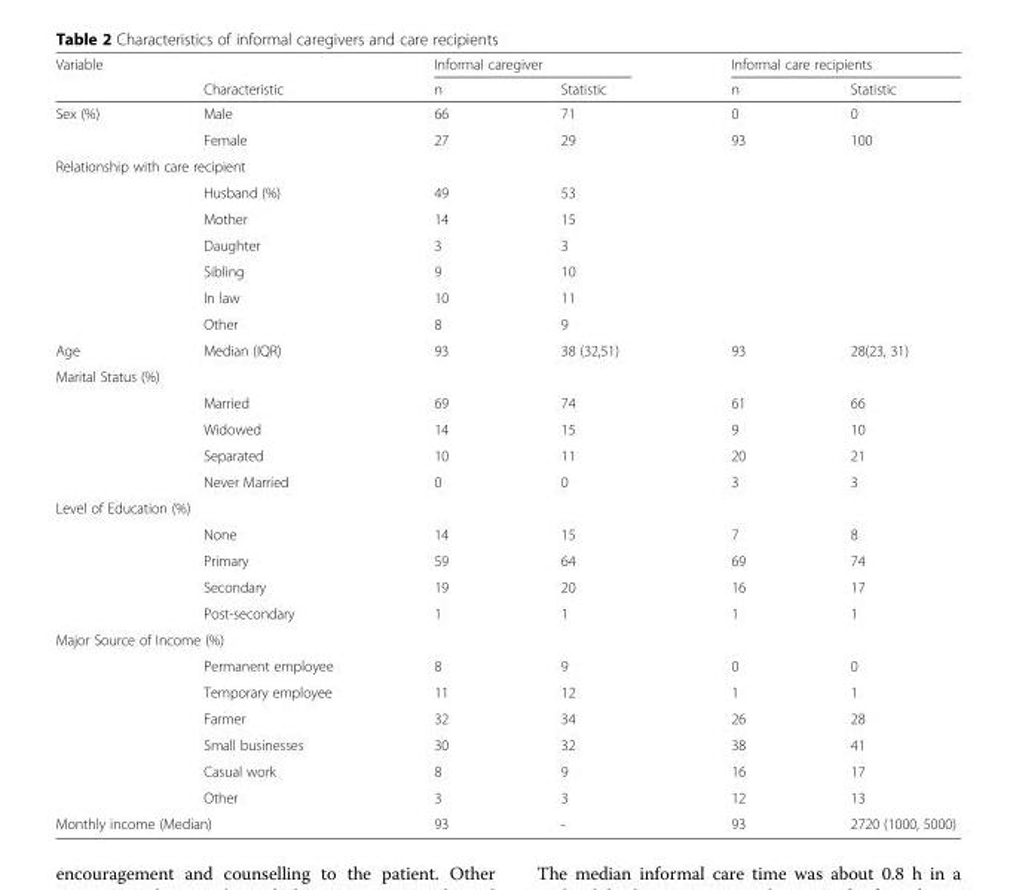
<table><thead><tr><td rowspan="2">Variable</td><td rowspan="2">Characteristic</td><td colspan="2">Informal caregiver</td><td colspan="2">Informal care recipients</td></tr><tr><td>n</td><td>Statistic</td><td>n</td><td>Statistic</td></tr></thead><tbody><tr><td rowspan="2">Sex (%)</td><td>Male</td><td>66</td><td>71</td><td>0</td><td>0</td></tr><tr><td>Female</td><td>27</td><td>29</td><td>93</td><td>100</td></tr><tr><td colspan="6">Relationship with care recipient</td></tr><tr><td></td><td>Husband (%)</td><td>49</td><td>53</td><td></td><td></td></tr><tr><td></td><td>Mother</td><td>14</td><td>15</td><td></td><td></td></tr><tr><td></td><td>Daughter</td><td>3</td><td>3</td><td></td><td></td></tr><tr><td></td><td>Sibling</td><td>9</td><td>10</td><td></td><td></td></tr><tr><td></td><td>In law</td><td>10</td><td>11</td><td></td><td></td></tr><tr><td></td><td>Other</td><td>8</td><td>9</td><td></td><td></td></tr><tr><td>Age</td><td>Median (IQR)</td><td>93</td><td>38 (32,51)</td><td>93</td><td>28(23, 31)</td></tr><tr><td colspan="6">Marital Status (%)</td></tr><tr><td></td><td>Married</td><td>69</td><td>74</td><td>61</td><td>66</td></tr><tr><td></td><td>Widowed</td><td>14</td><td>15</td><td>9</td><td>10</td></tr><tr><td></td><td>Separated</td><td>10</td><td>11</td><td>20</td><td>21</td></tr><tr><td></td><td>Never Married</td><td>0</td><td>0</td><td>3</td><td>3</td></tr><tr><td colspan="6">Level of Education (%)</td></tr><tr><td></td><td>None</td><td>14</td><td>15</td><td>7</td><td>8</td></tr><tr><td></td><td>Primary</td><td>59</td><td>64</td><td>69</td><td>74</td></tr><tr><td></td><td>Secondary</td><td>19</td><td>20</td><td>16</td><td>17</td></tr><tr><td></td><td>Post-secondary</td><td>1</td><td>1</td><td>1</td><td>1</td></tr><tr><td colspan="6">Major Source of Income (%)</td></tr><tr><td></td><td>Permanent employee</td><td>8</td><td>9</td><td>0</td><td>0</td></tr><tr><td></td><td>Temporary employee</td><td>11</td><td>12</td><td>1</td><td>1</td></tr><tr><td></td><td>Farmer</td><td>32</td><td>34</td><td>26</td><td>28</td></tr><tr><td></td><td>Small businesses</td><td>30</td><td>32</td><td>38</td><td>41</td></tr><tr><td></td><td>Casual work</td><td>8</td><td>9</td><td>16</td><td>17</td></tr><tr><td></td><td>Other</td><td>3</td><td>3</td><td>12</td><td>13</td></tr><tr><td colspan="2">Monthly income (Median)</td><td>93</td><td>-</td><td>93</td><td>2720 (1000, 5000)</td></tr></tbody></table>